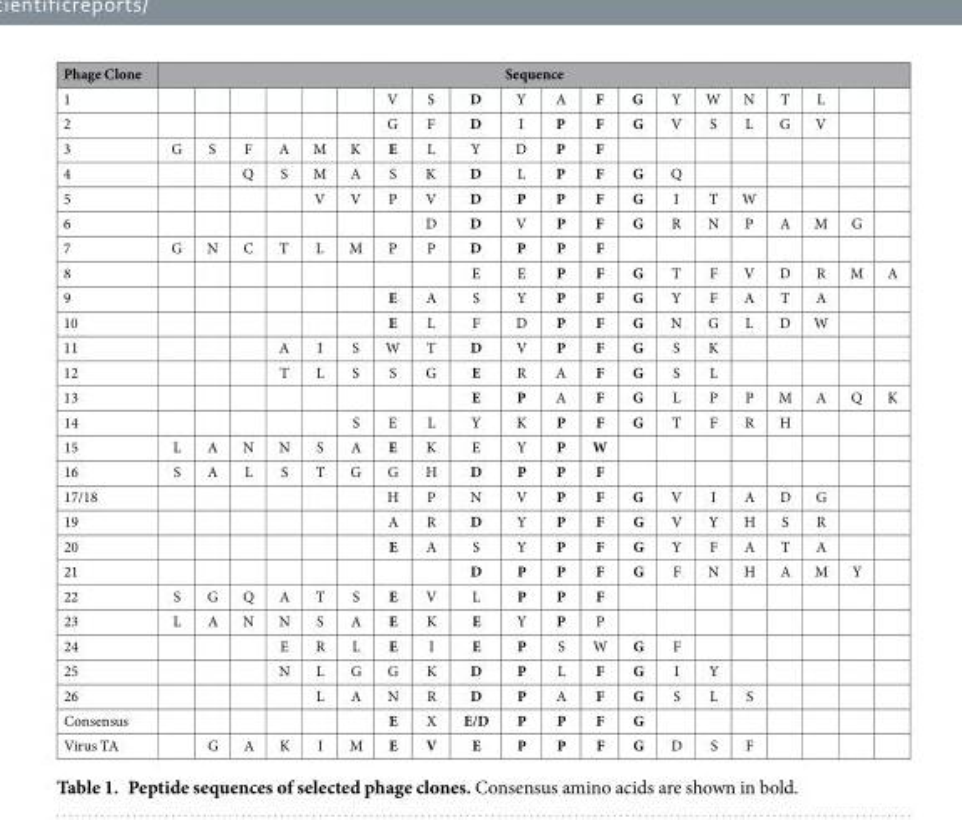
<table><thead><tr><td rowspan="2">Phage Clone 1</td><td colspan="20">Sequence</td></tr><tr><td></td><td></td><td></td><td></td><td></td><td></td><td>V</td><td>S</td><td>D</td><td>Y</td><td>A</td><td>F</td><td>G</td><td>Y</td><td>W</td><td>N</td><td>T</td><td>L</td><td></td><td></td></tr></thead><tbody><tr><td>2</td><td></td><td></td><td></td><td></td><td></td><td></td><td>G</td><td>F</td><td>D</td><td>I</td><td>P</td><td>F</td><td>G</td><td>V</td><td>S</td><td>L</td><td>G</td><td>V</td><td></td><td></td></tr><tr><td>3</td><td>G</td><td>S</td><td>F</td><td>A</td><td>M</td><td>K</td><td>E</td><td>L</td><td>Y</td><td>D</td><td>P</td><td>F</td><td></td><td></td><td></td><td></td><td></td><td></td><td></td><td></td></tr><tr><td>4</td><td></td><td></td><td>Q</td><td>S</td><td>M</td><td>A</td><td>S</td><td>K</td><td>D</td><td>L</td><td>P</td><td>F</td><td>G</td><td>Q</td><td></td><td></td><td></td><td></td><td></td><td></td></tr><tr><td>5</td><td></td><td></td><td></td><td></td><td>V</td><td>V</td><td>P</td><td>V</td><td>D</td><td>P</td><td>P</td><td>F</td><td>G</td><td>I</td><td>T</td><td>W</td><td></td><td></td><td></td><td></td></tr><tr><td>6</td><td></td><td></td><td></td><td></td><td></td><td></td><td></td><td>D</td><td>D</td><td>V</td><td>P</td><td>F</td><td>G</td><td>R</td><td>N</td><td>P</td><td>A</td><td>M</td><td>G</td><td></td></tr><tr><td>7</td><td>G</td><td>N</td><td>C</td><td>T</td><td>L</td><td>M</td><td>P</td><td>P</td><td>D</td><td>P</td><td>P</td><td>F</td><td></td><td></td><td></td><td></td><td></td><td></td><td></td><td></td></tr><tr><td>8</td><td></td><td></td><td></td><td></td><td></td><td></td><td></td><td></td><td>E</td><td>E</td><td>P</td><td>F</td><td>G</td><td>T</td><td>F</td><td>V</td><td>D</td><td>R</td><td>M</td><td>A</td></tr><tr><td>9</td><td></td><td></td><td></td><td></td><td></td><td></td><td>E</td><td>A</td><td>S</td><td>Y</td><td>P</td><td>F</td><td>G</td><td>Y</td><td>F</td><td>A</td><td>T</td><td>A</td><td></td><td></td></tr><tr><td>10</td><td></td><td></td><td></td><td></td><td></td><td></td><td>E</td><td>L</td><td>F</td><td>D</td><td>P</td><td>F</td><td>G</td><td>N</td><td>G</td><td>L</td><td>D</td><td>W</td><td></td><td></td></tr><tr><td>11</td><td></td><td></td><td></td><td>A</td><td>I</td><td>S</td><td>W</td><td>T</td><td>D</td><td>V</td><td>P</td><td>F</td><td>G</td><td>S</td><td>K</td><td></td><td></td><td></td><td></td><td></td></tr><tr><td>12</td><td></td><td></td><td></td><td>T</td><td>L</td><td>S</td><td>S</td><td>G</td><td>E</td><td>R</td><td>A</td><td>F</td><td>G</td><td>S</td><td>L</td><td></td><td></td><td></td><td></td><td></td></tr><tr><td>13</td><td></td><td></td><td></td><td></td><td></td><td></td><td></td><td></td><td>E</td><td>P</td><td>A</td><td>F</td><td>G</td><td>L</td><td>P</td><td>P</td><td>M</td><td>A</td><td>Q</td><td>K</td></tr><tr><td>14</td><td></td><td></td><td></td><td></td><td></td><td>S</td><td>E</td><td>L</td><td>Y</td><td>K</td><td>P</td><td>F</td><td>G</td><td>T</td><td>F</td><td>R</td><td>H</td><td></td><td></td><td></td></tr><tr><td>15</td><td>L</td><td>A</td><td>N</td><td>N</td><td>S</td><td>A</td><td>E</td><td>K</td><td>E</td><td>Y</td><td>P</td><td>W</td><td></td><td></td><td></td><td></td><td></td><td></td><td></td><td></td></tr><tr><td>16</td><td>S</td><td>A</td><td>L</td><td>S</td><td>T</td><td>G</td><td>G</td><td>H</td><td>D</td><td>P</td><td>P</td><td>F</td><td></td><td></td><td></td><td></td><td></td><td></td><td></td><td></td></tr><tr><td>17/18</td><td></td><td></td><td></td><td></td><td></td><td></td><td>H</td><td>P</td><td>N</td><td>V</td><td>P</td><td>F</td><td>G</td><td>V</td><td>I</td><td>A</td><td>D</td><td>G</td><td></td><td></td></tr><tr><td>19</td><td></td><td></td><td></td><td></td><td></td><td></td><td>A</td><td>R</td><td>D</td><td>Y</td><td>P</td><td>F</td><td>G</td><td>V</td><td>Y</td><td>H</td><td>S</td><td>R</td><td></td><td></td></tr><tr><td>20</td><td></td><td></td><td></td><td></td><td></td><td></td><td>E</td><td>A</td><td>S</td><td>Y</td><td>P</td><td>F</td><td>G</td><td>Y</td><td>F</td><td>A</td><td>T</td><td>A</td><td></td><td></td></tr><tr><td>21</td><td></td><td></td><td></td><td></td><td></td><td></td><td></td><td></td><td>D</td><td>P</td><td>P</td><td>F</td><td>G</td><td>F</td><td>N</td><td>H</td><td>A</td><td>M</td><td>Y</td><td></td></tr><tr><td>22</td><td>S</td><td>G</td><td>Q</td><td>A</td><td>T</td><td>S</td><td>E</td><td>V</td><td>L</td><td>P</td><td>P</td><td>F</td><td></td><td></td><td></td><td></td><td></td><td></td><td></td><td></td></tr><tr><td>23</td><td>L</td><td>A</td><td>N</td><td>N</td><td>S</td><td>A</td><td>E</td><td>K</td><td>E</td><td>Y</td><td>P</td><td>P</td><td></td><td></td><td></td><td></td><td></td><td></td><td></td><td></td></tr><tr><td>24</td><td></td><td></td><td></td><td>E</td><td>R</td><td>L</td><td>E</td><td>I</td><td>E</td><td>P</td><td>S</td><td>W</td><td>G</td><td>F</td><td></td><td></td><td></td><td></td><td></td><td></td></tr><tr><td>25</td><td></td><td></td><td></td><td>N</td><td>L</td><td>G</td><td>G</td><td>K</td><td>D</td><td>P</td><td>L</td><td>F</td><td>G</td><td>I</td><td>Y</td><td></td><td></td><td></td><td></td><td></td></tr><tr><td>26</td><td></td><td></td><td></td><td></td><td>L</td><td>A</td><td>N</td><td>R</td><td>D</td><td>P</td><td>A</td><td>F</td><td>G</td><td>S</td><td>L</td><td>S</td><td></td><td></td><td></td><td></td></tr><tr><td>Consensus</td><td></td><td></td><td></td><td></td><td></td><td></td><td>E</td><td>X</td><td>E/D</td><td>P</td><td>P</td><td>F</td><td>G</td><td></td><td></td><td></td><td></td><td></td><td></td><td></td></tr><tr><td>Virus TA</td><td></td><td>G</td><td>A</td><td>K</td><td>I</td><td>M</td><td>E</td><td>V</td><td>E</td><td>P</td><td>P</td><td>F</td><td>G</td><td>D</td><td>S</td><td>F</td><td></td><td></td><td></td><td></td></tr></tbody></table>